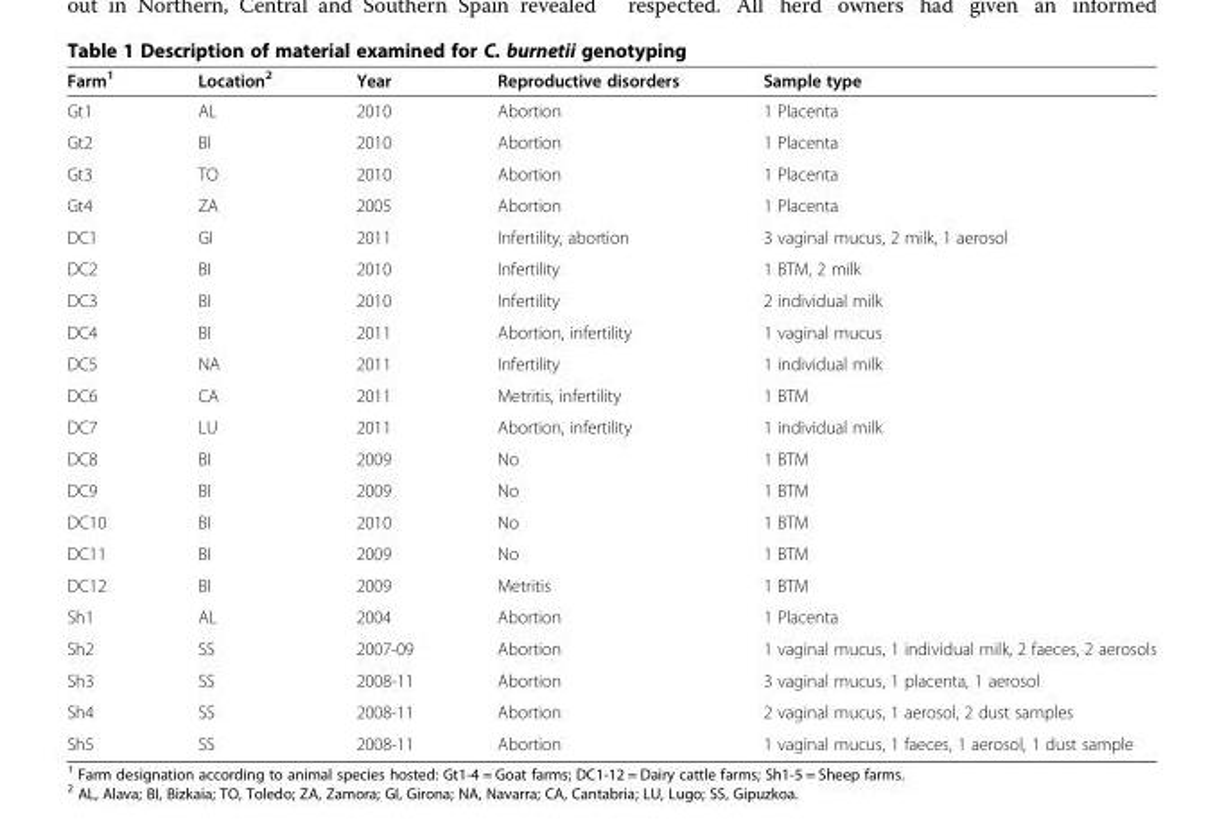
<table><thead><tr><td>Farm<sup>1</sup></td><td>Location<sup>2</sup></td><td>Year</td><td>Reproductive disorders</td><td>Sample type</td></tr></thead><tbody><tr><td>Gt1</td><td>AL</td><td>2010</td><td>Abortion</td><td>1 Placenta</td></tr><tr><td>Gt2</td><td>BI</td><td>2010</td><td>Abortion</td><td>1 Placenta</td></tr><tr><td>Gt3</td><td>TO</td><td>2010</td><td>Abortion</td><td>1 Placenta</td></tr><tr><td>Gt4</td><td>ZA</td><td>2005</td><td>Abortion</td><td>1 Placenta</td></tr><tr><td>DC1</td><td>GI</td><td>2011</td><td>Infertility, abortion</td><td>3 vaginal mucus, 2 milk, 1 aerosol</td></tr><tr><td>DC2</td><td>BI</td><td>2010</td><td>Infertility</td><td>1 BTM, 2 milk</td></tr><tr><td>DC3</td><td>BI</td><td>2010</td><td>Infertility</td><td>2 individual milk</td></tr><tr><td>DC4</td><td>BI</td><td>2011</td><td>Abortion, infertility</td><td>1 vaginal mucus</td></tr><tr><td>DC5</td><td>NA</td><td>2011</td><td>Infertility</td><td>1 individual milk</td></tr><tr><td>DC6</td><td>CA</td><td>2011</td><td>Metritis, infertility</td><td>1 BTM</td></tr><tr><td>DC7</td><td>LU</td><td>2011</td><td>Abortion, infertility</td><td>1 individual milk</td></tr><tr><td>DC8</td><td>BI</td><td>2009</td><td>No</td><td>1 BTM</td></tr><tr><td>DC9</td><td>BI</td><td>2009</td><td>No</td><td>1 BTM</td></tr><tr><td>DC10</td><td>BI</td><td>2010</td><td>No</td><td>1 BTM</td></tr><tr><td>DC11</td><td>BI</td><td>2009</td><td>No</td><td>1 BTM</td></tr><tr><td>DC12</td><td>BI</td><td>2009</td><td>Metritis</td><td>1 BTM</td></tr><tr><td>Sh1</td><td>AL</td><td>2004</td><td>Abortion</td><td>1 Placenta</td></tr><tr><td>Sh2</td><td>SS</td><td>2007-09</td><td>Abortion</td><td>1 vaginal mucus, 1 individual milk, 2 faeces, 2 aerosols</td></tr><tr><td>Sh3</td><td>SS</td><td>2008-11</td><td>Abortion</td><td>3 vaginal mucus, 1 placenta, 1 aerosol</td></tr><tr><td>Sh4</td><td>SS</td><td>2008-11</td><td>Abortion</td><td>2 vaginal mucus, 1 aerosol, 2 dust samples</td></tr><tr><td>Sh5</td><td>SS</td><td>2008-11</td><td>Abortion</td><td>1 vaginal mucus, 1 faeces, 1 aerosol, 1 dust sample</td></tr></tbody></table>